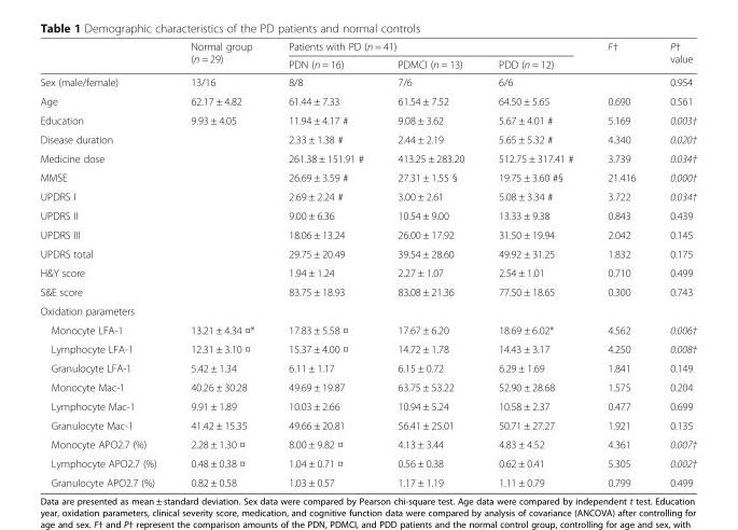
<table><thead><tr><td rowspan="2"></td><td rowspan="2">Normal group (n = 29)</td><td colspan="3">Patients with PD (n = 41)</td><td rowspan="2">F†</td><td rowspan="2">P† value</td></tr><tr><td>PDN (n = 16)</td><td>PDMCI (n = 13)</td><td>PDD (n = 12)</td></tr></thead><tbody><tr><td>Sex (male/female)</td><td>13/16</td><td>8/8</td><td>7/6</td><td>6/6</td><td></td><td>0.954</td></tr><tr><td>Age</td><td>62.17 ± 4.82</td><td>61.44 ± 7.33</td><td>61.54 ± 7.52</td><td>64.50 ± 5.65</td><td>0.690</td><td>0.561</td></tr><tr><td>Education</td><td>9.93 ± 4.05</td><td>11.94 ± 4.17 #</td><td>9.08 ± 3.62</td><td>5.67 ± 4.01 #</td><td>5.169</td><td>0.003†</td></tr><tr><td>Disease duration</td><td></td><td>2.33 ± 1.38 #</td><td>2.44 ± 2.19</td><td>5.65 ± 5.32 #</td><td>4.340</td><td>0.020†</td></tr><tr><td>Medicine dose</td><td></td><td>261.38 ± 151.91 #</td><td>413.25 ± 283.20</td><td>512.75 ± 317.41 #</td><td>3.739</td><td>0.034†</td></tr><tr><td>MMSE</td><td></td><td>26.69 ± 3.59 #</td><td>27.31 ± 1.55 §</td><td>19.75 ± 3.60 #§</td><td>21.416</td><td>0.000†</td></tr><tr><td>UPDRS I</td><td></td><td>2.69 ± 2.24 #</td><td>3.00 ± 2.61</td><td>5.08 ± 3.34 #</td><td>3.722</td><td>0.034†</td></tr><tr><td>UPDRS II</td><td></td><td>9.00 ± 6.36</td><td>10.54 ± 9.00</td><td>13.33 ± 9.38</td><td>0.843</td><td>0.439</td></tr><tr><td>UPDRS III</td><td></td><td>18.06 ± 13.24</td><td>26.00 ± 17.92</td><td>31.50 ± 19.94</td><td>2.042</td><td>0.145</td></tr><tr><td>UPDRS total</td><td></td><td>29.75 ± 20.49</td><td>39.54 ± 28.60</td><td>49.92 ± 31.25</td><td>1.832</td><td>0.175</td></tr><tr><td>H&amp;Y score</td><td></td><td>1.94 ± 1.24</td><td>2.27 ± 1.07</td><td>2.54 ± 1.01</td><td>0.710</td><td>0.499</td></tr><tr><td>S&amp;E score</td><td></td><td>83.75 ± 18.93</td><td>83.08 ± 21.36</td><td>77.50 ± 18.65</td><td>0.300</td><td>0.743</td></tr><tr><td colspan="7">Oxidation parameters</td></tr><tr><td>Monocyte LFA-1</td><td>13.21 ± 4.34 ¤*</td><td>17.83 ± 5.58 ¤</td><td>17.67 ± 6.20</td><td>18.69 ± 6.02*</td><td>4.562</td><td>0.006†</td></tr><tr><td>Lymphocyte LFA-1</td><td>12.31 ± 3.10 ¤</td><td>15.37 ± 4.00 ¤</td><td>14.72 ± 1.78</td><td>14.43 ± 3.17</td><td>4.250</td><td>0.008†</td></tr><tr><td>Granulocyte LFA-1</td><td>5.42 ± 1.34</td><td>6.11 ± 1.17</td><td>6.15 ± 0.72</td><td>6.29 ± 1.69</td><td>1.841</td><td>0.149</td></tr><tr><td>Monocyte Mac-1</td><td>40.26 ± 30.28</td><td>49.69 ± 19.87</td><td>63.75 ± 53.22</td><td>52.90 ± 28.68</td><td>1.575</td><td>0.204</td></tr><tr><td>Lymphocyte Mac-1</td><td>9.91 ± 1.89</td><td>10.03 ± 2.66</td><td>10.94 ± 5.24</td><td>10.58 ± 2.37</td><td>0.477</td><td>0.699</td></tr><tr><td>Granulocyte Mac-1</td><td>41.42 ± 15.35</td><td>49.66 ± 20.81</td><td>56.41 ± 25.01</td><td>50.71 ± 27.27</td><td>1.921</td><td>0.135</td></tr><tr><td>Monocyte APO2.7 (%)</td><td>2.28 ± 1.30 ¤</td><td>8.00 ± 9.82 ¤</td><td>4.13 ± 3.44</td><td>4.83 ± 4.52</td><td>4.361</td><td>0.007†</td></tr><tr><td>Lymphocyte APO2.7 (%)</td><td>0.48 ± 0.38 ¤</td><td>1.04 ± 0.71 ¤</td><td>0.56 ± 0.38</td><td>0.62 ± 0.41</td><td>5.305</td><td>0.002†</td></tr><tr><td>Granulocyte APO2.7 (%)</td><td>0.82 ± 0.58</td><td>1.03 ± 0.57</td><td>1.17 ± 1.19</td><td>1.11 ± 0.79</td><td>0.799</td><td>0.499</td></tr></tbody></table>